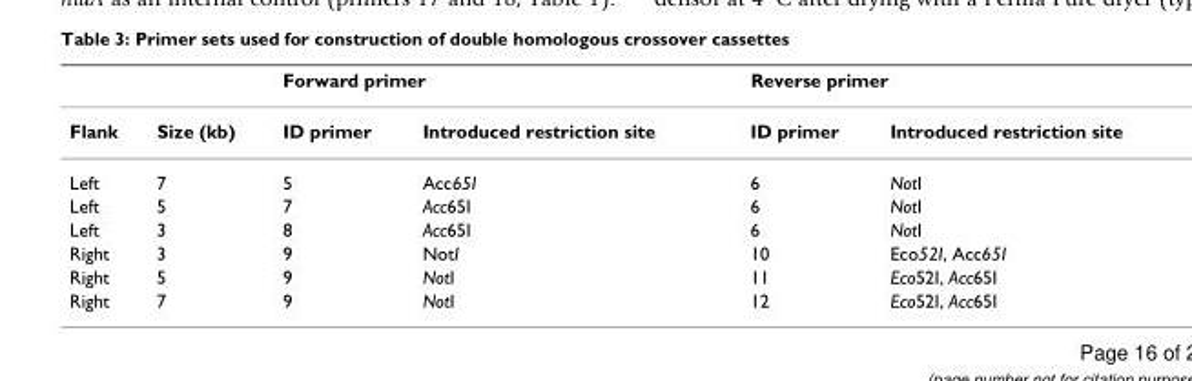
<table><thead><tr><td rowspan="2">Flank</td><td rowspan="2">Size (kb)</td><td colspan="2">Forward primer</td><td colspan="2">Reverse primer</td></tr><tr><td>ID primer</td><td>Introduced restriction site</td><td>ID primer</td><td>Introduced restriction site</td></tr></thead><tbody><tr><td>Left</td><td>7</td><td>5</td><td>Acc65I</td><td>6</td><td>NotI</td></tr><tr><td>Left</td><td>5</td><td>7</td><td>Acc65I</td><td>6</td><td>NotI</td></tr><tr><td>Left</td><td>3</td><td>8</td><td>Acc65I</td><td>6</td><td>NotI</td></tr><tr><td>Right</td><td>3</td><td>9</td><td>NotI</td><td>10</td><td>Eco52I, Acc65I</td></tr><tr><td>Right</td><td>5</td><td>9</td><td>NotI</td><td>11</td><td>Eco52I, Acc65I</td></tr><tr><td>Right</td><td>7</td><td>9</td><td>NotI</td><td>12</td><td>Eco52I, Acc65I</td></tr></tbody></table>